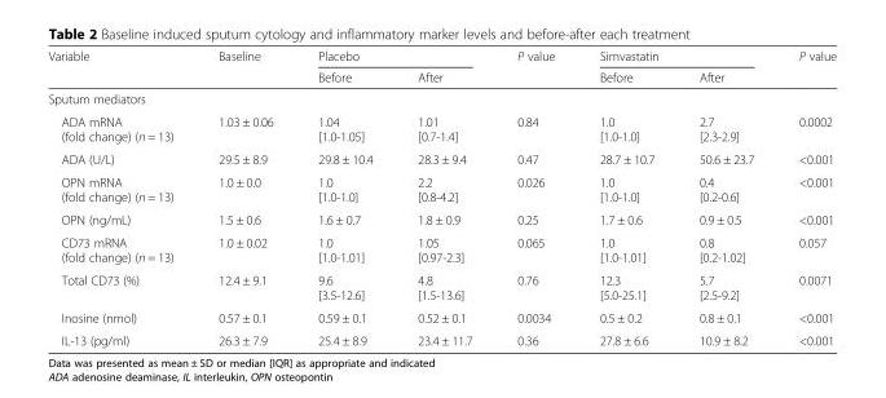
<table><thead><tr><td rowspan="2">Variable</td><td rowspan="2">Baseline</td><td colspan="2">Placebo</td><td rowspan="2">P value</td><td colspan="2">Simvastatin</td><td rowspan="2">P value</td></tr><tr><td>Before</td><td>After</td><td>Before</td><td>After</td></tr></thead><tbody><tr><td colspan="8">Sputum mediators</td></tr><tr><td>ADA mRNA (fold change) (n = 13)</td><td>1.03 ± 0.06</td><td>1.04 [1.0-1.05]</td><td>1.01 [0.7-1.4]</td><td>0.84</td><td>1.0 [1.0-1.0]</td><td>2.7 [2.3-2.9]</td><td>0.0002</td></tr><tr><td>ADA (U/L)</td><td>29.5 ± 8.9</td><td>29.8 ± 10.4</td><td>28.3 ± 9.4</td><td>0.47</td><td>28.7 ± 10.7</td><td>50.6 ± 23.7</td><td>&lt;0.001</td></tr><tr><td>OPN mRNA (fold change) (n = 13)</td><td>1.0 ± 0.0</td><td>1.0 [1.0-1.0]</td><td>2.2 [0.8-4.2]</td><td>0.026</td><td>1.0 [1.0-1.0]</td><td>0.4 [0.2-0.6]</td><td>&lt;0.001</td></tr><tr><td>OPN (ng/mL)</td><td>1.5 ± 0.6</td><td>1.6 ± 0.7</td><td>1.8 ± 0.9</td><td>0.25</td><td>1.7 ± 0.6</td><td>0.9 ± 0.5</td><td>&lt;0.001</td></tr><tr><td>CD73 mRNA (fold change) (n = 13)</td><td>1.0 ± 0.02</td><td>1.0 [1.0-1.01]</td><td>1.05 [0.97-2.3]</td><td>0.065</td><td>1.0 [1.0-1.01]</td><td>0.8 [0.2-1.02]</td><td>0.057</td></tr><tr><td>Total CD73 (%)</td><td>12.4 ± 9.1</td><td>9.6 [3.5-12.6]</td><td>4.8 [1.5-13.6]</td><td>0.76</td><td>12.3 [5.0-25.1]</td><td>5.7 [2.5-9.2]</td><td>0.0071</td></tr><tr><td>Inosine (nmol)</td><td>0.57 ± 0.1</td><td>0.59 ± 0.1</td><td>0.52 ± 0.1</td><td>0.0034</td><td>0.5 ± 0.2</td><td>0.8 ± 0.1</td><td>&lt;0.001</td></tr><tr><td>IL-13 (pg/ml)</td><td>26.3 ± 7.9</td><td>25.4 ± 8.9</td><td>23.4 ± 11.7</td><td>0.36</td><td>27.8 ± 6.6</td><td>10.9 ± 8.2</td><td>&lt;0.001</td></tr></tbody></table>